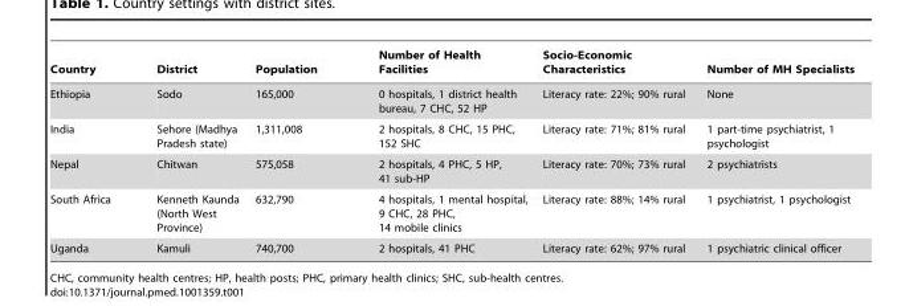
<table><thead><tr><td>Country</td><td>District</td><td>Population</td><td>Number of Health Facilities</td><td>Socio-Economic Characteristics</td><td>Number of MH Specialists</td></tr></thead><tbody><tr><td>Ethiopia</td><td>Sodo</td><td>165,000</td><td>0 hospitals, 1 district health bureau, 7 CHC, 52 HP</td><td>Literacy rate: 22%; 90% rural</td><td>None</td></tr><tr><td>India</td><td>Sehore (Madhya Pradesh state)</td><td>1,311,008</td><td>2 hospitals, 8 CHC, 15 PHC, 152 SHC</td><td>Literacy rate: 71%; 81% rural</td><td>1 part-time psychiatrist, 1 psychologist</td></tr><tr><td>Nepal</td><td>Chitwan</td><td>575,058</td><td>2 hospitals, 4 PHC, 5 HP, 41 sub-HP</td><td>Literacy rate: 70%; 73% rural</td><td>2 psychiatrists</td></tr><tr><td>South Africa</td><td>Kenneth Kaunda (North West Province)</td><td>632,790</td><td>4 hospitals, 1 mental hospital, 9 CHC, 28 PHC, 14 mobile clinics</td><td>Literacy rate: 88%; 14% rural</td><td>1 psychiatrist, 1 psychologist</td></tr><tr><td>Uganda</td><td>Kamuli</td><td>740,700</td><td>2 hospitals, 41 PHC</td><td>Literacy rate: 62%; 97% rural</td><td>1 psychiatric clinical officer</td></tr></tbody></table>